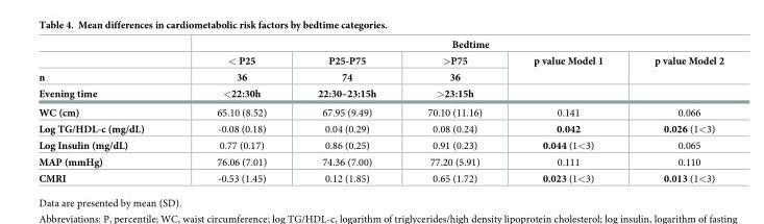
<table><thead><tr><td rowspan="4">n Evening time</td><td colspan="5">Bedtime</td></tr><tr><td rowspan="3">&lt; P25 36 &lt;22:30h</td><td rowspan="3">P25-P75 74 22:30–23:15h</td><td rowspan="3">&gt;P75 36 &gt;23:15h</td><td rowspan="3">p value Model 1</td><td rowspan="3">p value Model 2</td></tr><tr></tr><tr></tr></thead><tbody><tr><td>WC (cm)</td><td>65.10 (8.52)</td><td>67.95 (9.49)</td><td>70.10 (11.16)</td><td>0.141</td><td>0.066</td></tr><tr><td>Log TG/HDL-c (mg/dL)</td><td>-0.08 (0.18)</td><td>0.04 (0.29)</td><td>0.08 (0.24)</td><td>0.042</td><td>0.026 (1&lt;3)</td></tr><tr><td>Log Insulin (mg/dL)</td><td>0.77 (0.17)</td><td>0.86 (0.25)</td><td>0.91 (0.23)</td><td>0.044 (1&lt;3)</td><td>0.065</td></tr><tr><td>MAP (mmHg)</td><td>76.06 (7.01)</td><td>74.36 (7.00)</td><td>77.20 (5.91)</td><td>0.111</td><td>0.110</td></tr><tr><td>CMRI</td><td>-0.53 (1.45)</td><td>0.12 (1.85)</td><td>0.65 (1.72)</td><td>0.023 (1&lt;3)</td><td>0.013 (1&lt;3)</td></tr></tbody></table>